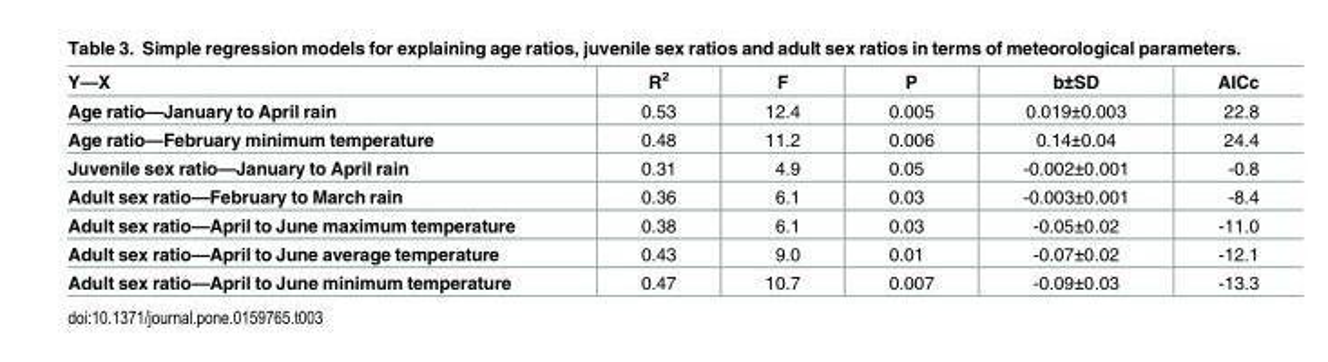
<table><thead><tr><td>Y—X</td><td>R<sup>2</sup></td><td>F</td><td>P</td><td>b±SD</td><td>AICc</td></tr></thead><tbody><tr><td>Age ratio—January to April rain</td><td>0.53</td><td>12.4</td><td>0.005</td><td>0.019±0.003</td><td>22.8</td></tr><tr><td>Age ratio—February minimum temperature</td><td>0.48</td><td>11.2</td><td>0.006</td><td>0.14±0.04</td><td>24.4</td></tr><tr><td>Juvenile sex ratio—January to April rain</td><td>0.31</td><td>4.9</td><td>0.05</td><td>-0.002±0.001</td><td>-0.8</td></tr><tr><td>Adult sex ratio—February to March rain</td><td>0.36</td><td>6.1</td><td>0.03</td><td>-0.003±0.001</td><td>-8.4</td></tr><tr><td>Adult sex ratio—April to June maximum temperature</td><td>0.38</td><td>6.1</td><td>0.03</td><td>-0.05±0.02</td><td>-11.0</td></tr><tr><td>Adult sex ratio—April to June average temperature</td><td>0.43</td><td>9.0</td><td>0.01</td><td>-0.07±0.02</td><td>-12.1</td></tr><tr><td>Adult sex ratio—April to June minimum temperature</td><td>0.47</td><td>10.7</td><td>0.007</td><td>-0.09±0.03</td><td>-13.3</td></tr></tbody></table>